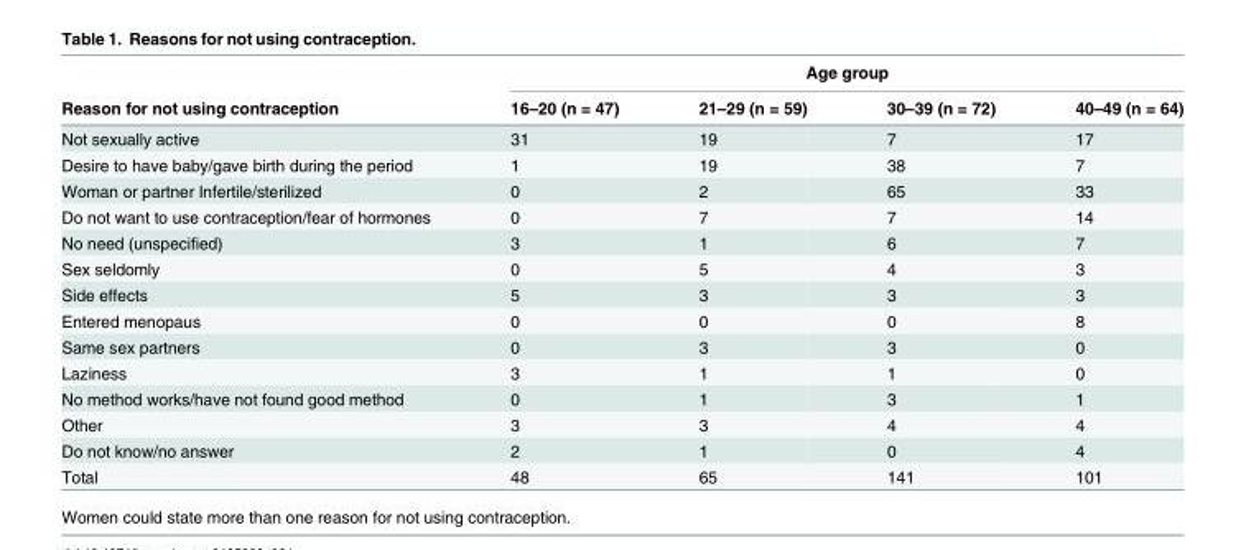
<table><thead><tr><td rowspan="2">Reason for not using contraception</td><td colspan="4">Age group</td></tr><tr><td>16–20 (n = 47)</td><td>21–29 (n = 59)</td><td>30–39 (n = 72)</td><td>40–49 (n = 64)</td></tr></thead><tbody><tr><td>Not sexually active</td><td>31</td><td>19</td><td>7</td><td>17</td></tr><tr><td>Desire to have baby/gave birth during the period</td><td>1</td><td>19</td><td>38</td><td>7</td></tr><tr><td>Woman or partner Infertile/sterilized</td><td>0</td><td>2</td><td>65</td><td>33</td></tr><tr><td>Do not want to use contraception/fear of hormones</td><td>0</td><td>7</td><td>7</td><td>14</td></tr><tr><td>No need (unspecified)</td><td>3</td><td>1</td><td>6</td><td>7</td></tr><tr><td>Sex seldomly</td><td>0</td><td>5</td><td>4</td><td>3</td></tr><tr><td>Side effects</td><td>5</td><td>3</td><td>3</td><td>3</td></tr><tr><td>Entered menopaus</td><td>0</td><td>0</td><td>0</td><td>8</td></tr><tr><td>Same sex partners</td><td>0</td><td>3</td><td>3</td><td>0</td></tr><tr><td>Laziness</td><td>3</td><td>1</td><td>1</td><td>0</td></tr><tr><td>No method works/have not found good method</td><td>0</td><td>1</td><td>3</td><td>1</td></tr><tr><td>Other</td><td>3</td><td>3</td><td>4</td><td>4</td></tr><tr><td>Do not know/no answer</td><td>2</td><td>1</td><td>0</td><td>4</td></tr><tr><td>Total</td><td>48</td><td>65</td><td>141</td><td>101</td></tr></tbody></table>